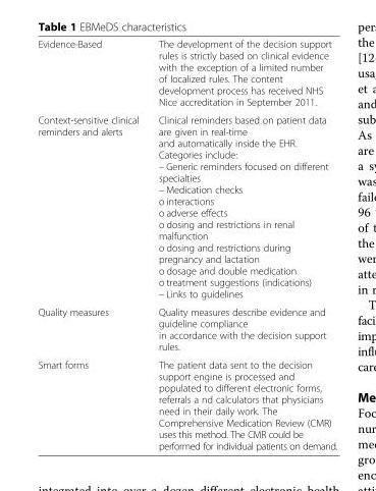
<table><tbody><tr><td>Evidence-Based</td><td>The development of the decision support rules is strictly based on clinical evidence with the exception of a limited number of localized rules. The content development process has received NHS Nice accreditation in September 2011.</td></tr><tr><td>Context-sensitive clinical reminders and alerts</td><td>Clinical reminders based on patient data are given in real-time and automatically inside the EHR. Categories include: – Generic reminders focused on different specialties – Medication checks o interactions o adverse effects o dosing and restrictions in renal malfunction o dosing and restrictions during pregnancy and lactation o dosage and double medication o treatment suggestions (indications) – Links to guidelines</td></tr><tr><td>Quality measures</td><td>Quality measures describe evidence and guideline compliance in accordance with the decision support rules.</td></tr><tr><td>Smart forms</td><td>The patient data sent to the decision support engine is processed and populated to different electronic forms, referrals a nd calculators that physicians need in their daily work. The Comprehensive Medication Review (CMR) uses this method. The CMR could be performed for individual patients on demand.</td></tr></tbody></table>